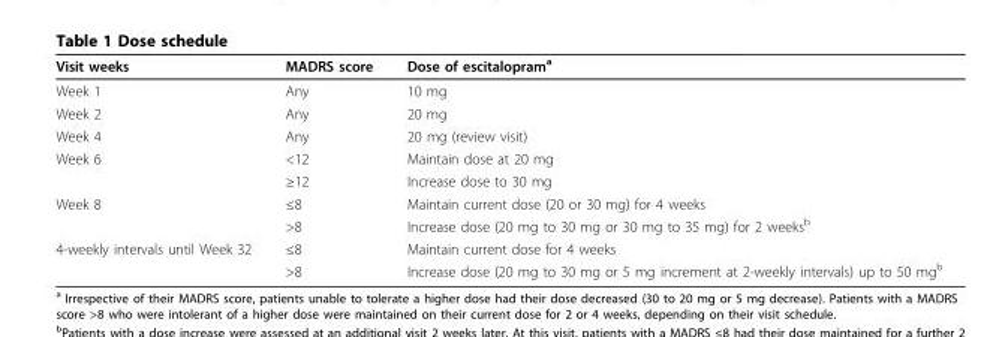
<table><thead><tr><td>Visit weeks</td><td>MADRS score</td><td>Dose of escitalopram<sup>a</sup></td></tr></thead><tbody><tr><td>Week 1</td><td>Any</td><td>10 mg</td></tr><tr><td>Week 2</td><td>Any</td><td>20 mg</td></tr><tr><td>Week 4</td><td>Any</td><td>20 mg (review visit)</td></tr><tr><td rowspan="2">Week 6</td><td>&lt;12</td><td>Maintain dose at 20 mg</td></tr><tr><td>≥12</td><td>Increase dose to 30 mg</td></tr><tr><td rowspan="2">Week 8</td><td>≤8</td><td>Maintain current dose (20 or 30 mg) for 4 weeks</td></tr><tr><td>&gt;8</td><td>Increase dose (20 mg to 30 mg or 30 mg to 35 mg) for 2 weeks<sup>b</sup></td></tr><tr><td rowspan="2">4-weekly intervals until Week 32</td><td>≤8</td><td>Maintain current dose for 4 weeks</td></tr><tr><td>&gt;8</td><td>Increase dose (20 mg to 30 mg or 5 mg increment at 2-weekly intervals) up to 50 mg<sup>b</sup></td></tr></tbody></table>